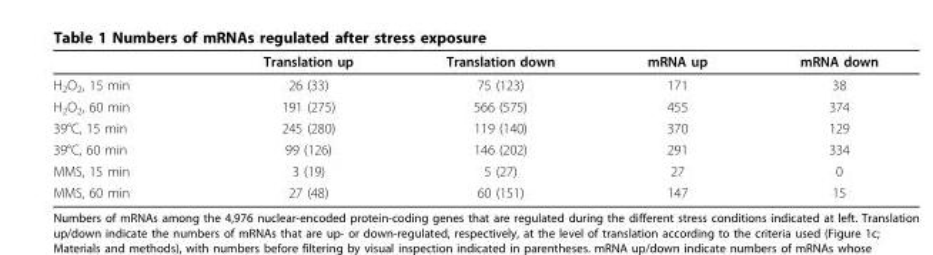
<table><thead><tr><td></td><td>Translation up</td><td>Translation down</td><td>mRNA up</td><td>mRNA down</td></tr></thead><tbody><tr><td>H<sub>2</sub>O<sub>2</sub>, 15 min</td><td>26 (33)</td><td>75 (123)</td><td>171</td><td>38</td></tr><tr><td>H<sub>2</sub>O<sub>2</sub>, 60 min</td><td>191 (275)</td><td>566 (575)</td><td>455</td><td>374</td></tr><tr><td>39°C, 15 min</td><td>245 (280)</td><td>119 (140)</td><td>370</td><td>129</td></tr><tr><td>39°C, 60 min</td><td>99 (126)</td><td>146 (202)</td><td>291</td><td>334</td></tr><tr><td>MMS, 15 min</td><td>3 (19)</td><td>5 (27)</td><td>27</td><td>0</td></tr><tr><td>MMS, 60 min</td><td>27 (48)</td><td>60 (151)</td><td>147</td><td>15</td></tr></tbody></table>